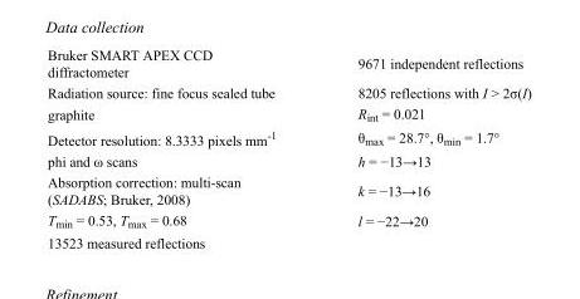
<table><tbody><tr><td>Bruker SMART APEX CCD diffractometer</td><td>9671 independent reflections</td></tr><tr><td>Radiation source: fine focus sealed tube</td><td>8205 reflections with I &gt; 2σ(I)</td></tr><tr><td>graphite</td><td>R<sub>int</sub> = 0.021</td></tr><tr><td>Detector resolution: 8.3333 pixels mm<sup>-1</sup></td><td>θ<sub>max</sub> = 28.7°, θ<sub>min</sub> = 1.7°</td></tr><tr><td>phi and ω scans</td><td>h = −13→13</td></tr><tr><td>Absorption correction: multi-scan (SADABS; Bruker, 2008)</td><td>k = −13→16</td></tr><tr><td>T<sub>min</sub> = 0.53, T<sub>max</sub> = 0.68</td><td>l = −22→20</td></tr><tr><td>13523 measured reflections</td><td></td></tr></tbody></table>